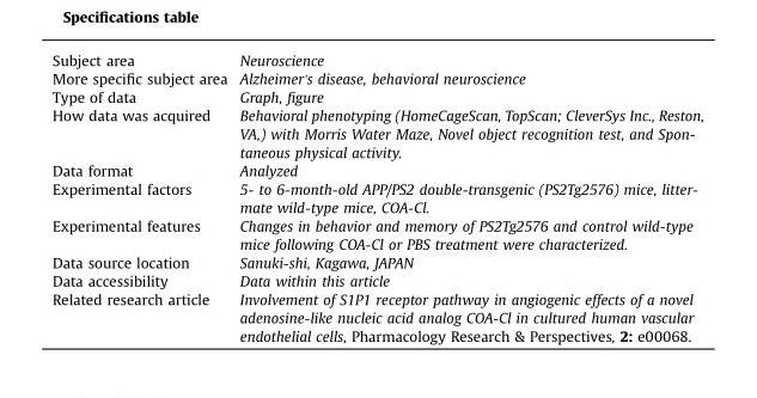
<table><tbody><tr><td>Subject area</td><td>Neuroscience</td></tr><tr><td>More specific subject area</td><td>Alzheimer&#x27;s disease, behavioral neuroscience</td></tr><tr><td>Type of data</td><td>Graph, figure</td></tr><tr><td>How data was acquired</td><td>Behavioral phenotyping (HomeCageScan, TopScan; CleverSys Inc., Reston, VA,) with Morris Water Maze, Novel object recognition test, and Spon- taneous physical activity.</td></tr><tr><td>Data format</td><td>Analyzed</td></tr><tr><td>Experimental factors</td><td>5- to 6-month-old APP/PS2 double-transgenic (PS2Tg2576) mice, litter- mate wild-type mice, COA-Cl.</td></tr><tr><td>Experimental features</td><td>Changes in behavior and memory of PS2Tg2576 and control wild-type mice following COA-Cl or PBS treatment were characterized.</td></tr><tr><td>Data source location</td><td>Sanuki-shi, Kagawa, JAPAN</td></tr><tr><td>Data accessibility</td><td>Data within this article</td></tr><tr><td>Related research article</td><td>Involvement of S1P1 receptor pathway in angiogenic effects of a novel adenosine-like nucleic acid analog COA-Cl in cultured human vascular endothelial cells, Pharmacology Research &amp; Perspectives, 2: e00068.</td></tr></tbody></table>